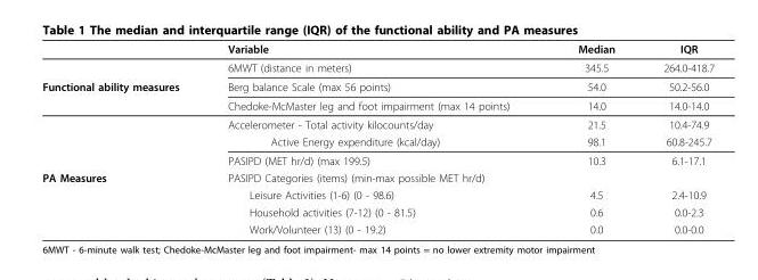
<table><thead><tr><td></td><td>Variable</td><td>Median</td><td>IQR</td></tr></thead><tbody><tr><td></td><td>6MWT (distance in meters)</td><td>345.5</td><td>264.0-418.7</td></tr><tr><td rowspan="5">Functional ability measures</td><td>Berg balance Scale (max 56 points)</td><td>54.0</td><td>50.2-56.0</td></tr><tr><td>Chedoke-McMaster leg and foot impairment (max 14 points)</td><td>14.0</td><td>14.0-14.0</td></tr><tr><td>Accelerometer - Total activity kilocounts/day</td><td>21.5</td><td>10.4-74.9</td></tr><tr><td>Active Energy expenditure (kcal/day)</td><td>98.1</td><td>60.8-245.7</td></tr><tr><td>PASIPD (MET hr/d) (max 199.5)</td><td>10.3</td><td>6.1-17.1</td></tr><tr><td rowspan="4">PA Measures</td><td>PASIPD Categories (items) (min-max possible MET hr/d)</td><td></td><td></td></tr><tr><td>Leisure Activities (1-6) (0 - 98.6)</td><td>4.5</td><td>2.4-10.9</td></tr><tr><td>Household activities (7-12) (0 - 81.5)</td><td>0.6</td><td>0.0-2.3</td></tr><tr><td>Work/Volunteer (13) (0 - 19.2)</td><td>0.0</td><td>0.0-0.0</td></tr></tbody></table>